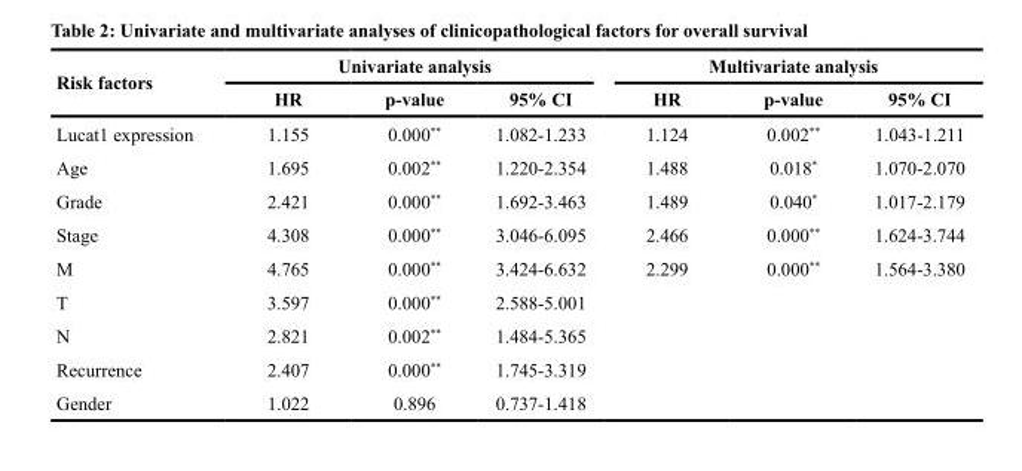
<table><thead><tr><td rowspan="2">Risk factors</td><td colspan="3">Univariate analysis</td><td colspan="3">Multivariate analysis</td></tr><tr><td>HR</td><td>p-value</td><td>95% CI</td><td>HR</td><td>p-value</td><td>95% CI</td></tr></thead><tbody><tr><td>Lucat1 expression</td><td>1.155</td><td>0.000**</td><td>1.082-1.233</td><td>1.124</td><td>0.002**</td><td>1.043-1.211</td></tr><tr><td>Age</td><td>1.695</td><td>0.002**</td><td>1.220-2.354</td><td>1.488</td><td>0.018*</td><td>1.070-2.070</td></tr><tr><td>Grade</td><td>2.421</td><td>0.000**</td><td>1.692-3.463</td><td>1.489</td><td>0.040*</td><td>1.017-2.179</td></tr><tr><td>Stage</td><td>4.308</td><td>0.000**</td><td>3.046-6.095</td><td>2.466</td><td>0.000**</td><td>1.624-3.744</td></tr><tr><td>M</td><td>4.765</td><td>0.000**</td><td>3.424-6.632</td><td>2.299</td><td>0.000**</td><td>1.564-3.380</td></tr><tr><td>T</td><td>3.597</td><td>0.000**</td><td>2.588-5.001</td><td></td><td></td><td></td></tr><tr><td>N</td><td>2.821</td><td>0.002**</td><td>1.484-5.365</td><td></td><td></td><td></td></tr><tr><td>Recurrence</td><td>2.407</td><td>0.000**</td><td>1.745-3.319</td><td></td><td></td><td></td></tr><tr><td>Gender</td><td>1.022</td><td>0.896</td><td>0.737-1.418</td><td></td><td></td><td></td></tr></tbody></table>